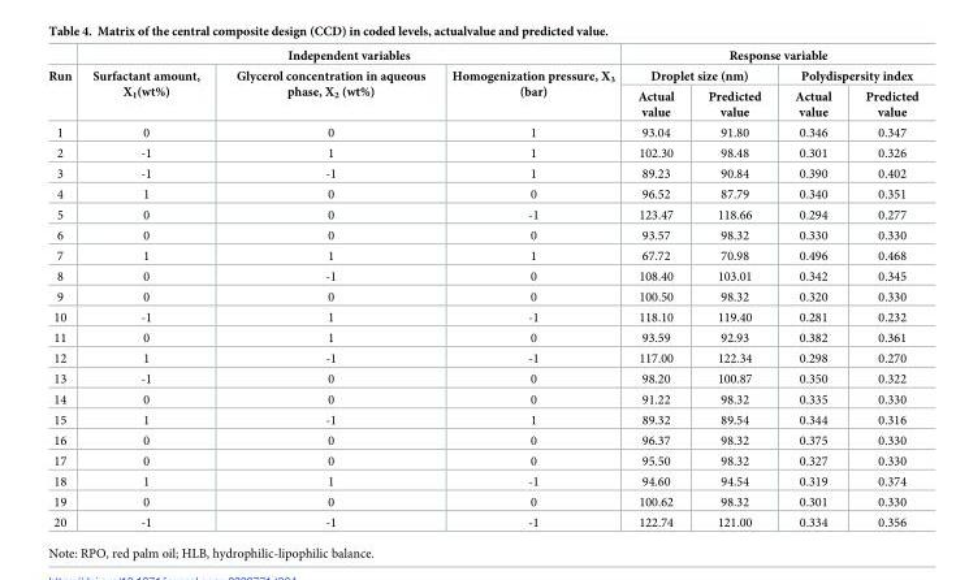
<table><thead><tr><td rowspan="3">Run</td><td colspan="3">Independent variables</td><td colspan="4">Response variable</td></tr><tr><td rowspan="2">Surfactant amount, X<sub>1</sub>(wt%)</td><td rowspan="2">Glycerol concentration in aqueous phase, X<sub>2</sub> (wt%)</td><td rowspan="2">Homogenization pressure, X<sub>3</sub> (bar)</td><td colspan="2">Droplet size (nm)</td><td colspan="2">Polydispersity index</td></tr><tr><td>Actual value</td><td>Predicted value</td><td>Actual value</td><td>Predicted value</td></tr></thead><tbody><tr><td>1</td><td>0</td><td>0</td><td>1</td><td>93.04</td><td>91.80</td><td>0.346</td><td>0.347</td></tr><tr><td>2</td><td>-1</td><td>1</td><td>1</td><td>102.30</td><td>98.48</td><td>0.301</td><td>0.326</td></tr><tr><td>3</td><td>-1</td><td>-1</td><td>1</td><td>89.23</td><td>90.84</td><td>0.390</td><td>0.402</td></tr><tr><td>4</td><td>1</td><td>0</td><td>0</td><td>96.52</td><td>87.79</td><td>0.340</td><td>0.351</td></tr><tr><td>5</td><td>0</td><td>0</td><td>-1</td><td>123.47</td><td>118.66</td><td>0.294</td><td>0.277</td></tr><tr><td>6</td><td>0</td><td>0</td><td>0</td><td>93.57</td><td>98.32</td><td>0.330</td><td>0.330</td></tr><tr><td>7</td><td>1</td><td>1</td><td>1</td><td>67.72</td><td>70.98</td><td>0.496</td><td>0.468</td></tr><tr><td>8</td><td>0</td><td>-1</td><td>0</td><td>108.40</td><td>103.01</td><td>0.342</td><td>0.345</td></tr><tr><td>9</td><td>0</td><td>0</td><td>0</td><td>100.50</td><td>98.32</td><td>0.320</td><td>0.330</td></tr><tr><td>10</td><td>-1</td><td>1</td><td>-1</td><td>118.10</td><td>119.40</td><td>0.281</td><td>0.232</td></tr><tr><td>11</td><td>0</td><td>1</td><td>0</td><td>93.59</td><td>92.93</td><td>0.382</td><td>0.361</td></tr><tr><td>12</td><td>1</td><td>-1</td><td>-1</td><td>117.00</td><td>122.34</td><td>0.298</td><td>0.270</td></tr><tr><td>13</td><td>-1</td><td>0</td><td>0</td><td>98.20</td><td>100.87</td><td>0.350</td><td>0.322</td></tr><tr><td>14</td><td>0</td><td>0</td><td>0</td><td>91.22</td><td>98.32</td><td>0.335</td><td>0.330</td></tr><tr><td>15</td><td>1</td><td>-1</td><td>1</td><td>89.32</td><td>89.54</td><td>0.344</td><td>0.316</td></tr><tr><td>16</td><td>0</td><td>0</td><td>0</td><td>96.37</td><td>98.32</td><td>0.375</td><td>0.330</td></tr><tr><td>17</td><td>0</td><td>0</td><td>0</td><td>95.50</td><td>98.32</td><td>0.327</td><td>0.330</td></tr><tr><td>18</td><td>1</td><td>1</td><td>-1</td><td>94.60</td><td>94.54</td><td>0.319</td><td>0.374</td></tr><tr><td>19</td><td>0</td><td>0</td><td>0</td><td>100.62</td><td>98.32</td><td>0.301</td><td>0.330</td></tr><tr><td>20</td><td>-1</td><td>-1</td><td>-1</td><td>122.74</td><td>121.00</td><td>0.334</td><td>0.356</td></tr></tbody></table>